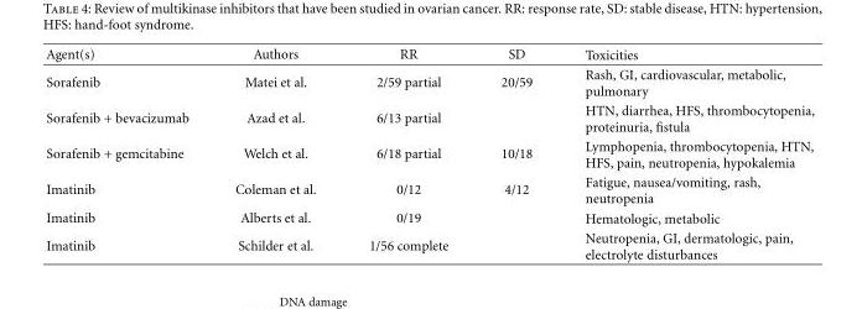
<table><thead><tr><td>Agent(s)</td><td>Authors</td><td>RR</td><td>SD</td><td>Toxicities</td></tr></thead><tbody><tr><td>Sorafenib</td><td>Matei et al.</td><td>2/59 partial</td><td>20/59</td><td>Rash, GI, cardiovascular, metabolic, pulmonary</td></tr><tr><td>Sorafenib + bevacizumab</td><td>Azad et al.</td><td>6/13 partial</td><td></td><td>HTN, diarrhea, HFS, thrombocytopenia, proteinuria, fistula</td></tr><tr><td>Sorafenib + gemcitabine</td><td>Welch et al.</td><td>6/18 partial</td><td>10/18</td><td>Lymphopenia, thrombocytopenia, HTN, HFS, pain, neutropenia, hypokalemia</td></tr><tr><td>Imatinib</td><td>Coleman et al.</td><td>0/12</td><td>4/12</td><td>Fatigue, nausea/vomiting, rash, neutropenia</td></tr><tr><td>Imatinib</td><td>Alberts et al.</td><td>0/19</td><td></td><td>Hematologic, metabolic</td></tr><tr><td>Imatinib</td><td>Schilder et al.</td><td>1/56 complete</td><td></td><td>Neutropenia, GI, dermatologic, pain, electrolyte disturbances</td></tr></tbody></table>